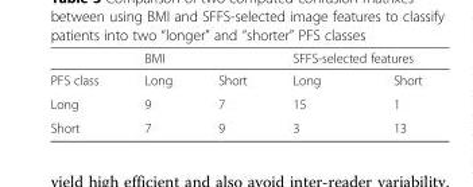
<table><thead><tr><td rowspan="2">PFS class</td><td colspan="2">BMI</td><td colspan="2">SFFS-selected features</td></tr><tr><td>Long</td><td>Short</td><td>Long</td><td>Short</td></tr></thead><tbody><tr><td>Long</td><td>9</td><td>7</td><td>15</td><td>1</td></tr><tr><td>Short</td><td>7</td><td>9</td><td>3</td><td>13</td></tr></tbody></table>